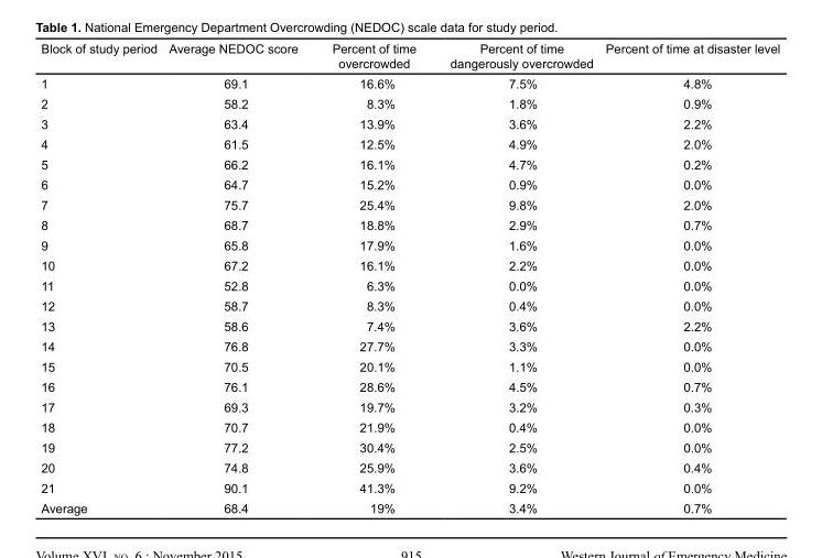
<table><thead><tr><td>Block of study period</td><td>Average NEDOC score</td><td>Percent of time overcrowded</td><td>Percent of time dangerously overcrowded</td><td>Percent of time at disaster level</td></tr></thead><tbody><tr><td>1</td><td>69.1</td><td>16.6%</td><td>7.5%</td><td>4.8%</td></tr><tr><td>2</td><td>58.2</td><td>8.3%</td><td>1.8%</td><td>0.9%</td></tr><tr><td>3</td><td>63.4</td><td>13.9%</td><td>3.6%</td><td>2.2%</td></tr><tr><td>4</td><td>61.5</td><td>12.5%</td><td>4.9%</td><td>2.0%</td></tr><tr><td>5</td><td>66.2</td><td>16.1%</td><td>4.7%</td><td>0.2%</td></tr><tr><td>6</td><td>64.7</td><td>15.2%</td><td>0.9%</td><td>0.0%</td></tr><tr><td>7</td><td>75.7</td><td>25.4%</td><td>9.8%</td><td>2.0%</td></tr><tr><td>8</td><td>68.7</td><td>18.8%</td><td>2.9%</td><td>0.7%</td></tr><tr><td>9</td><td>65.8</td><td>17.9%</td><td>1.6%</td><td>0.0%</td></tr><tr><td>10</td><td>67.2</td><td>16.1%</td><td>2.2%</td><td>0.0%</td></tr><tr><td>11</td><td>52.8</td><td>6.3%</td><td>0.0%</td><td>0.0%</td></tr><tr><td>12</td><td>58.7</td><td>8.3%</td><td>0.4%</td><td>0.0%</td></tr><tr><td>13</td><td>58.6</td><td>7.4%</td><td>3.6%</td><td>2.2%</td></tr><tr><td>14</td><td>76.8</td><td>27.7%</td><td>3.3%</td><td>0.0%</td></tr><tr><td>15</td><td>70.5</td><td>20.1%</td><td>1.1%</td><td>0.0%</td></tr><tr><td>16</td><td>76.1</td><td>28.6%</td><td>4.5%</td><td>0.7%</td></tr><tr><td>17</td><td>69.3</td><td>19.7%</td><td>3.2%</td><td>0.3%</td></tr><tr><td>18</td><td>70.7</td><td>21.9%</td><td>0.4%</td><td>0.0%</td></tr><tr><td>19</td><td>77.2</td><td>30.4%</td><td>2.5%</td><td>0.0%</td></tr><tr><td>20</td><td>74.8</td><td>25.9%</td><td>3.6%</td><td>0.4%</td></tr><tr><td>21</td><td>90.1</td><td>41.3%</td><td>9.2%</td><td>0.0%</td></tr><tr><td>Average</td><td>68.4</td><td>19%</td><td>3.4%</td><td>0.7%</td></tr></tbody></table>